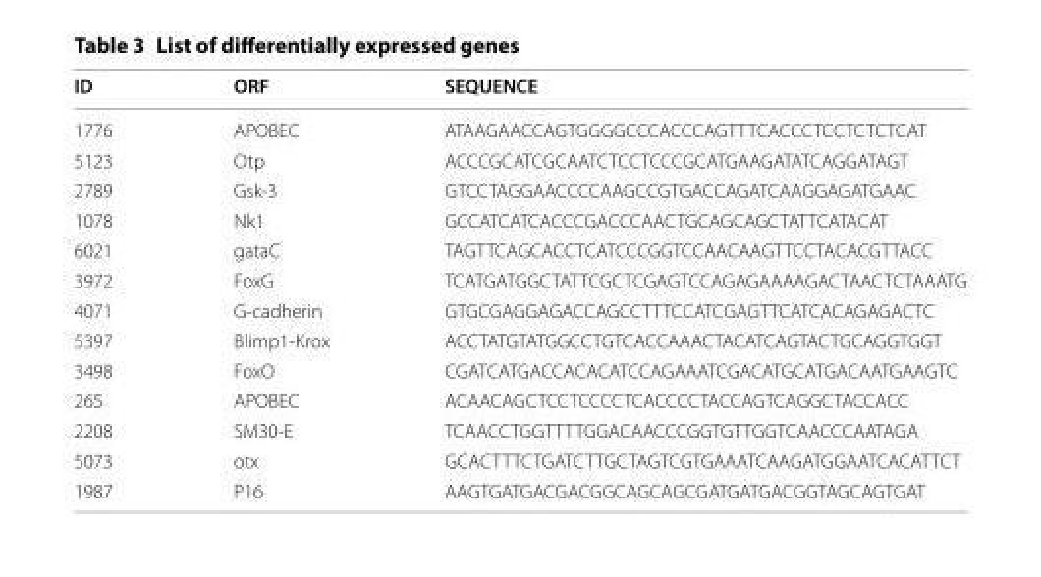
<table><thead><tr><td>ID</td><td>ORF</td><td>SEQUENCE</td></tr></thead><tbody><tr><td>1776</td><td>APOBEC</td><td>ATAAGAACCAGTGGGGCCCACCCAGTTTCACCCTCCTCTCTCAT</td></tr><tr><td>5123</td><td>Otp</td><td>ACCCGCATCGCAATCTCCTCCCGCATGAAGATATCAGGATAGT</td></tr><tr><td>2789</td><td>Gsk-3</td><td>GTCCTAGGAACCCCAAGCCGTGACCAGATCAAGGAGATGAAC</td></tr><tr><td>1078</td><td>Nk1</td><td>GCCATCATCACCCGACCCAACTGCAGCAGCTATTCATACAT</td></tr><tr><td>6021</td><td>gataC</td><td>TAGTTCAGCACCTCATCCCGGTCCAACAAGTTCCTACACGTTACC</td></tr><tr><td>3972</td><td>FoxG</td><td>TCATGATGGCTATTCGCTCGAGTCCAGAGAAAAGACTAACTCTAAATG</td></tr><tr><td>4071</td><td>G-cadherin</td><td>GTGCGAGGAGACCAGCCTTTCCATCGAGTTCATCACAGAGACTC</td></tr><tr><td>5397</td><td>Blimp1-Krox</td><td>ACCTATGTATGGCCTGTCACCAAACTACATCAGTACTGCAGGTGGT</td></tr><tr><td>3498</td><td>FoxO</td><td>CGATCATGACCACACATCCAGAAATCGACATGCATGACAATGAAGTC</td></tr><tr><td>265</td><td>APOBEC</td><td>ACAACAGCTCCTCCCCTCACCCCTACCAGTCAGGCTACCACC</td></tr><tr><td>2208</td><td>SM30-E</td><td>TCAACCTGGTTTTGGACAACCCGGTGTTGGTCAACCCAATAGA</td></tr><tr><td>5073</td><td>otx</td><td>GCACTTTCTGATCTTGCTAGTCGTGAAATCAAGATGGAATCACATTCT</td></tr><tr><td>1987</td><td>P16</td><td>AAGTGATGACGACGGCAGCAGCGATGATGACGGTAGCAGTGAT</td></tr></tbody></table>